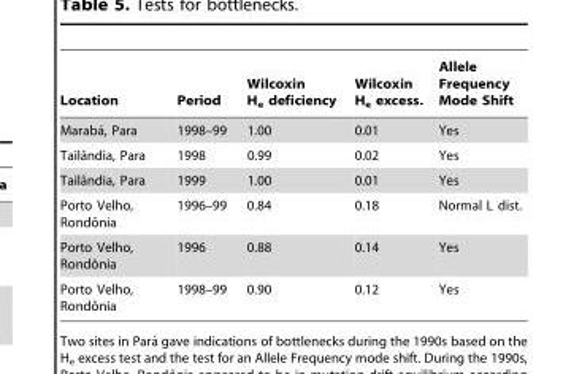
<table><thead><tr><td>Location</td><td>Period</td><td>Wilcoxin H<sub>e</sub> deficiency</td><td>Wilcoxin H<sub>e</sub> excess.</td><td>Allele Frequency Mode Shift</td></tr></thead><tbody><tr><td>Maraba´, Para</td><td>1998–99</td><td>1.00</td><td>0.01</td><td>Yes</td></tr><tr><td>Tailaˆndia, Para</td><td>1998</td><td>0.99</td><td>0.02</td><td>Yes</td></tr><tr><td>Tailaˆndia, Para</td><td>1999</td><td>1.00</td><td>0.01</td><td>Yes</td></tr><tr><td>Porto Velho, Rondoˆnia</td><td>1996–99</td><td>0.84</td><td>0.18</td><td>Normal L dist.</td></tr><tr><td>Porto Velho, Rondoˆnia</td><td>1996</td><td>0.88</td><td>0.14</td><td>Yes</td></tr><tr><td>Porto Velho, Rondoˆnia</td><td>1998–99</td><td>0.90</td><td>0.12</td><td>Yes</td></tr></tbody></table>